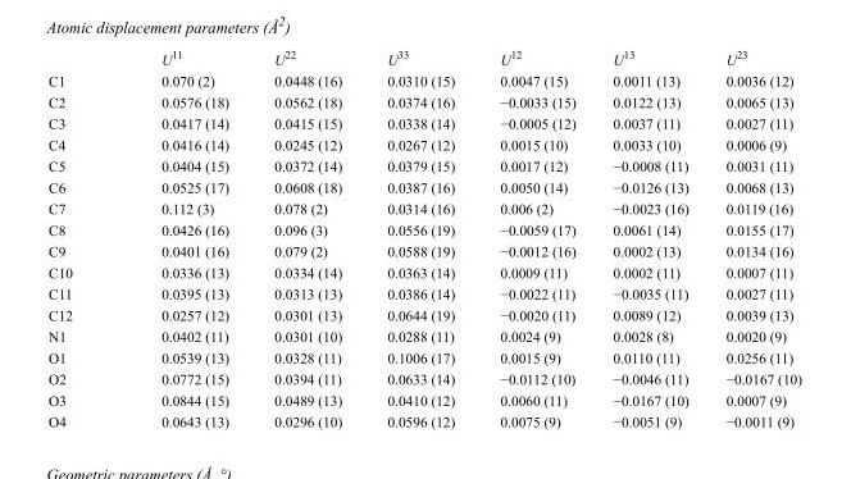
<table><thead><tr><td></td><td>U<sup>11</sup></td><td>U<sup>22</sup></td><td>U<sup>33</sup></td><td>U<sup>12</sup></td><td>U<sup>13</sup></td><td>U<sup>23</sup></td></tr></thead><tbody><tr><td>C1</td><td>0.070 (2)</td><td>0.0448 (16)</td><td>0.0310 (15)</td><td>0.0047 (15)</td><td>0.0011 (13)</td><td>0.0036 (12)</td></tr><tr><td>C2</td><td>0.0576 (18)</td><td>0.0562 (18)</td><td>0.0374 (16)</td><td>−0.0033 (15)</td><td>0.0122 (13)</td><td>0.0065 (13)</td></tr><tr><td>C3</td><td>0.0417 (14)</td><td>0.0415 (15)</td><td>0.0338 (14)</td><td>−0.0005 (12)</td><td>0.0037 (11)</td><td>0.0027 (11)</td></tr><tr><td>C4</td><td>0.0416 (14)</td><td>0.0245 (12)</td><td>0.0267 (12)</td><td>0.0015 (10)</td><td>0.0033 (10)</td><td>0.0006 (9)</td></tr><tr><td>C5</td><td>0.0404 (15)</td><td>0.0372 (14)</td><td>0.0379 (15)</td><td>0.0017 (12)</td><td>−0.0008 (11)</td><td>0.0031 (11)</td></tr><tr><td>C6</td><td>0.0525 (17)</td><td>0.0608 (18)</td><td>0.0387 (16)</td><td>0.0050 (14)</td><td>−0.0126 (13)</td><td>0.0068 (13)</td></tr><tr><td>C7</td><td>0.112 (3)</td><td>0.078 (2)</td><td>0.0314 (16)</td><td>0.006 (2)</td><td>−0.0023 (16)</td><td>0.0119 (16)</td></tr><tr><td>C8</td><td>0.0426 (16)</td><td>0.096 (3)</td><td>0.0556 (19)</td><td>−0.0059 (17)</td><td>0.0061 (14)</td><td>0.0155 (17)</td></tr><tr><td>C9</td><td>0.0401 (16)</td><td>0.079 (2)</td><td>0.0588 (19)</td><td>−0.0012 (16)</td><td>0.0002 (13)</td><td>0.0134 (16)</td></tr><tr><td>C10</td><td>0.0336 (13)</td><td>0.0334 (14)</td><td>0.0363 (14)</td><td>0.0009 (11)</td><td>0.0002 (11)</td><td>0.0007 (11)</td></tr><tr><td>C11</td><td>0.0395 (13)</td><td>0.0313 (13)</td><td>0.0386 (14)</td><td>−0.0022 (11)</td><td>−0.0035 (11)</td><td>0.0027 (11)</td></tr><tr><td>C12</td><td>0.0257 (12)</td><td>0.0301 (13)</td><td>0.0644 (19)</td><td>−0.0020 (11)</td><td>0.0089 (12)</td><td>0.0039 (13)</td></tr><tr><td>N1</td><td>0.0402 (11)</td><td>0.0301 (10)</td><td>0.0288 (11)</td><td>0.0024 (9)</td><td>0.0028 (8)</td><td>0.0020 (9)</td></tr><tr><td>O1</td><td>0.0539 (13)</td><td>0.0328 (11)</td><td>0.1006 (17)</td><td>0.0015 (9)</td><td>0.0110 (11)</td><td>0.0256 (11)</td></tr><tr><td>O2</td><td>0.0772 (15)</td><td>0.0394 (11)</td><td>0.0633 (14)</td><td>−0.0112 (10)</td><td>−0.0046 (11)</td><td>−0.0167 (10)</td></tr><tr><td>O3</td><td>0.0844 (15)</td><td>0.0489 (13)</td><td>0.0410 (12)</td><td>0.0060 (11)</td><td>−0.0167 (10)</td><td>0.0007 (9)</td></tr><tr><td>O4</td><td>0.0643 (13)</td><td>0.0296 (10)</td><td>0.0596 (12)</td><td>0.0075 (9)</td><td>−0.0051 (9)</td><td>−0.0011 (9)</td></tr></tbody></table>